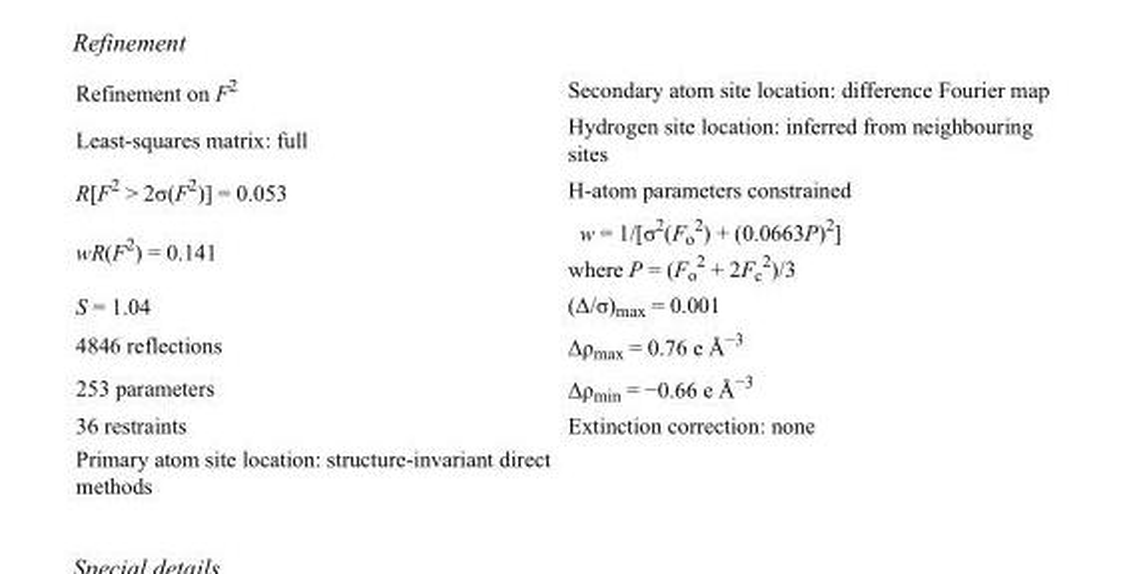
<table><tbody><tr><td>Refinement on F<sup>2</sup></td><td>Secondary atom site location: difference Fourier map</td></tr><tr><td>Least-squares matrix: full</td><td>Hydrogen site location: inferred from neighbouring sites</td></tr><tr><td>R[F<sup>2</sup> &gt; 2σ(F<sup>2</sup>)] = 0.053</td><td>H-atom parameters constrained</td></tr><tr><td>wR(F<sup>2</sup>) = 0.141</td><td>w = 1/[σ<sup>2</sup>(F<sub>o</sub> <sup>2</sup>) + (0.0663P)<sup>2</sup>] where P = (F<sub>o</sub> <sup>2</sup> + 2F<sub>c</sub> <sup>2</sup>)/3</td></tr><tr><td>S = 1.04</td><td>(Δ/σ)<sub>max</sub> = 0.001</td></tr><tr><td>4846 reflections</td><td>Δρ<sub>max</sub> = 0.76 e Å<sup>−3</sup></td></tr><tr><td>253 parameters</td><td>Δρ<sub>min</sub> = −0.66 e Å<sup>−3</sup></td></tr><tr><td>36 restraints</td><td>Extinction correction: none</td></tr><tr><td>Primary atom site location: structure-invariant direct methods</td><td></td></tr></tbody></table>